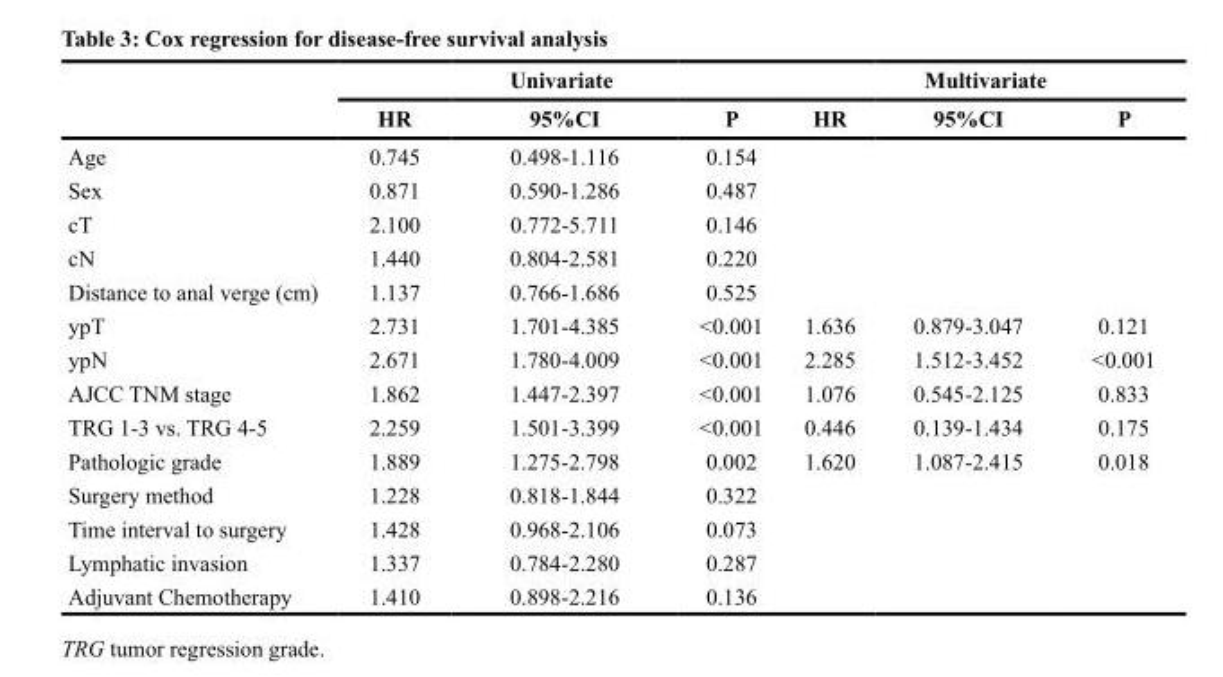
<table><thead><tr><td rowspan="2"></td><td colspan="3">Univariate</td><td colspan="3">Multivariate</td></tr><tr><td>HR</td><td>95%CI</td><td>P</td><td>HR</td><td>95%CI</td><td>P</td></tr></thead><tbody><tr><td>Age</td><td>0.745</td><td>0.498-1.116</td><td>0.154</td><td></td><td></td><td></td></tr><tr><td>Sex</td><td>0.871</td><td>0.590-1.286</td><td>0.487</td><td></td><td></td><td></td></tr><tr><td>cT</td><td>2.100</td><td>0.772-5.711</td><td>0.146</td><td></td><td></td><td></td></tr><tr><td>cN</td><td>1.440</td><td>0.804-2.581</td><td>0.220</td><td></td><td></td><td></td></tr><tr><td>Distance to anal verge (cm)</td><td>1.137</td><td>0.766-1.686</td><td>0.525</td><td></td><td></td><td></td></tr><tr><td>ypT</td><td>2.731</td><td>1.701-4.385</td><td>&lt;0.001</td><td>1.636</td><td>0.879-3.047</td><td>0.121</td></tr><tr><td>ypN</td><td>2.671</td><td>1.780-4.009</td><td>&lt;0.001</td><td>2.285</td><td>1.512-3.452</td><td>&lt;0.001</td></tr><tr><td>AJCC TNM stage</td><td>1.862</td><td>1.447-2.397</td><td>&lt;0.001</td><td>1.076</td><td>0.545-2.125</td><td>0.833</td></tr><tr><td>TRG 1-3 vs. TRG 4-5</td><td>2.259</td><td>1.501-3.399</td><td>&lt;0.001</td><td>0.446</td><td>0.139-1.434</td><td>0.175</td></tr><tr><td>Pathologic grade</td><td>1.889</td><td>1.275-2.798</td><td>0.002</td><td>1.620</td><td>1.087-2.415</td><td>0.018</td></tr><tr><td>Surgery method</td><td>1.228</td><td>0.818-1.844</td><td>0.322</td><td></td><td></td><td></td></tr><tr><td>Time interval to surgery</td><td>1.428</td><td>0.968-2.106</td><td>0.073</td><td></td><td></td><td></td></tr><tr><td>Lymphatic invasion</td><td>1.337</td><td>0.784-2.280</td><td>0.287</td><td></td><td></td><td></td></tr><tr><td>Adjuvant Chemotherapy</td><td>1.410</td><td>0.898-2.216</td><td>0.136</td><td></td><td></td><td></td></tr></tbody></table>